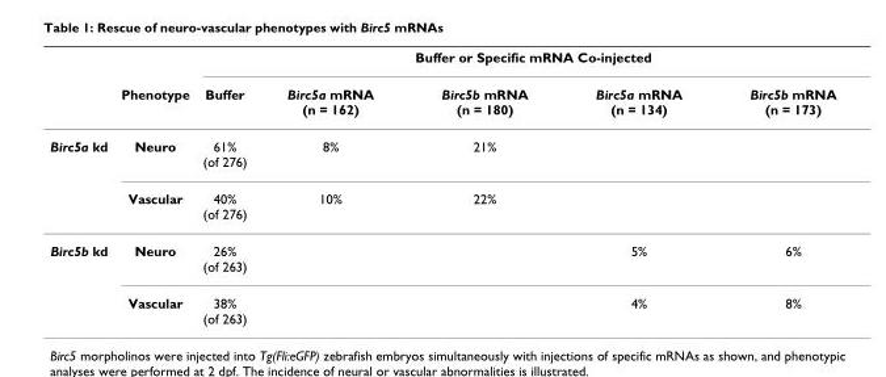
<table><thead><tr><td rowspan="2"></td><td rowspan="2">Phenotype</td><td colspan="5">Buffer or Specific mRNA Co-injected</td></tr><tr><td>Buffer</td><td>Birc5a mRNA (n = 162)</td><td>Birc5b mRNA (n = 180)</td><td>Birc5a mRNA (n = 134)</td><td>Birc5b mRNA (n = 173)</td></tr></thead><tbody><tr><td rowspan="2">Birc5a kd</td><td>Neuro</td><td>61% (of 276)</td><td>8%</td><td>21%</td><td></td><td></td></tr><tr><td>Vascular</td><td>40% (of 276)</td><td>10%</td><td>22%</td><td></td><td></td></tr><tr><td rowspan="2">Birc5b kd</td><td>Neuro</td><td>26% (of 263)</td><td></td><td></td><td>5%</td><td>6%</td></tr><tr><td>Vascular</td><td>38% (of 263)</td><td></td><td></td><td>4%</td><td>8%</td></tr></tbody></table>